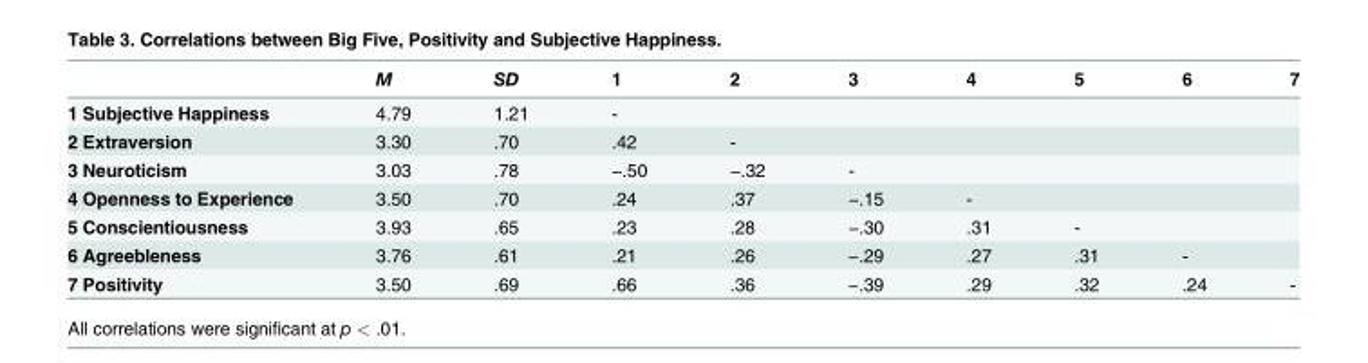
<table><thead><tr><td></td><td>M</td><td>SD</td><td>1</td><td>2</td><td>3</td><td>4</td><td>5</td><td>6</td><td>7</td></tr></thead><tbody><tr><td>1 Subjective Happiness</td><td>4.79</td><td>1.21</td><td>-</td><td></td><td></td><td></td><td></td><td></td><td></td></tr><tr><td>2 Extraversion</td><td>3.30</td><td>.70</td><td>.42</td><td>-</td><td></td><td></td><td></td><td></td><td></td></tr><tr><td>3 Neuroticism</td><td>3.03</td><td>.78</td><td>−.50</td><td>−.32</td><td>-</td><td></td><td></td><td></td><td></td></tr><tr><td>4 Openness to Experience</td><td>3.50</td><td>.70</td><td>.24</td><td>.37</td><td>−.15</td><td>-</td><td></td><td></td><td></td></tr><tr><td>5 Conscientiousness</td><td>3.93</td><td>.65</td><td>.23</td><td>.28</td><td>−.30</td><td>.31</td><td>-</td><td></td><td></td></tr><tr><td>6 Agreebleness</td><td>3.76</td><td>.61</td><td>.21</td><td>.26</td><td>−.29</td><td>.27</td><td>.31</td><td>-</td><td></td></tr><tr><td>7 Positivity</td><td>3.50</td><td>.69</td><td>.66</td><td>.36</td><td>−.39</td><td>.29</td><td>.32</td><td>.24</td><td>-</td></tr></tbody></table>